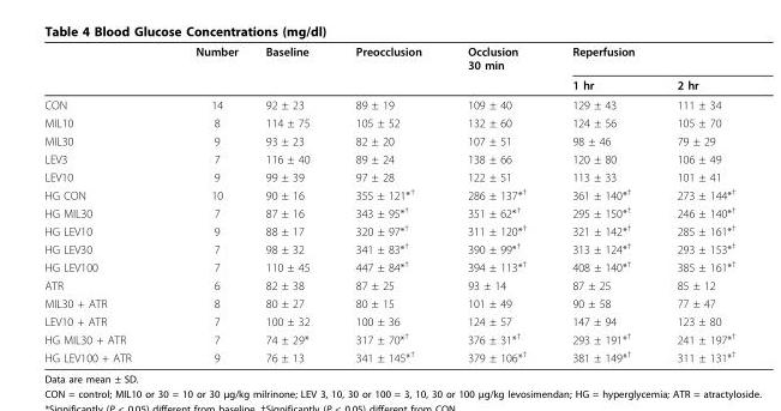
<table><thead><tr><td rowspan="2"></td><td rowspan="2">Number</td><td rowspan="2">Baseline</td><td rowspan="2">Preocclusion</td><td rowspan="2">Occlusion 30 min</td><td colspan="2">Reperfusion</td></tr><tr><td>1 hr</td><td>2 hr</td></tr></thead><tbody><tr><td>CON</td><td>14</td><td>92 ± 23</td><td>89 ± 19</td><td>109 ± 40</td><td>129 ± 43</td><td>111 ± 34</td></tr><tr><td>MIL10</td><td>8</td><td>114 ± 75</td><td>105 ± 52</td><td>132 ± 60</td><td>124 ± 56</td><td>105 ± 70</td></tr><tr><td>MIL30</td><td>9</td><td>93 ± 23</td><td>82 ± 20</td><td>107 ± 51</td><td>98 ± 46</td><td>79 ± 29</td></tr><tr><td>LEV3</td><td>7</td><td>116 ± 40</td><td>89 ± 24</td><td>138 ± 66</td><td>120 ± 80</td><td>106 ± 49</td></tr><tr><td>LEV10</td><td>9</td><td>99 ± 39</td><td>97 ± 28</td><td>122 ± 51</td><td>113 ± 33</td><td>101 ± 41</td></tr><tr><td>HG CON</td><td>10</td><td>90 ± 16</td><td>355 ± 121*<sup>†</sup></td><td>286 ± 137*<sup>†</sup></td><td>361 ± 140*<sup>†</sup></td><td>273 ± 144*<sup>†</sup></td></tr><tr><td>HG MIL30</td><td>7</td><td>87 ± 16</td><td>343 ± 95*<sup>†</sup></td><td>351 ± 62*<sup>†</sup></td><td>295 ± 150*<sup>†</sup></td><td>246 ± 140*<sup>†</sup></td></tr><tr><td>HG LEV10</td><td>9</td><td>88 ± 17</td><td>320 ± 97*<sup>†</sup></td><td>311 ± 120*<sup>†</sup></td><td>321 ± 142*<sup>†</sup></td><td>285 ± 161*<sup>†</sup></td></tr><tr><td>HG LEV30</td><td>7</td><td>98 ± 32</td><td>341 ± 83*<sup>†</sup></td><td>390 ± 99*<sup>†</sup></td><td>313 ± 124*<sup>†</sup></td><td>293 ± 153*<sup>†</sup></td></tr><tr><td>HG LEV100</td><td>7</td><td>110 ± 45</td><td>447 ± 84*<sup>†</sup></td><td>394 ± 113*<sup>†</sup></td><td>408 ± 140*<sup>†</sup></td><td>385 ± 161*<sup>†</sup></td></tr><tr><td>ATR</td><td>6</td><td>82 ± 38</td><td>87 ± 25</td><td>93 ± 14</td><td>87 ± 25</td><td>85 ± 12</td></tr><tr><td>MIL30 + ATR</td><td>8</td><td>80 ± 27</td><td>80 ± 15</td><td>101 ± 49</td><td>90 ± 58</td><td>77 ± 47</td></tr><tr><td>LEV10 + ATR</td><td>7</td><td>100 ± 32</td><td>100 ± 36</td><td>124 ± 57</td><td>147 ± 94</td><td>123 ± 80</td></tr><tr><td>HG MIL30 + ATR</td><td>7</td><td>74 ± 29*</td><td>317 ± 70*<sup>†</sup></td><td>376 ± 31*<sup>†</sup></td><td>293 ± 191*<sup>†</sup></td><td>241 ± 197*<sup>†</sup></td></tr><tr><td>HG LEV100 + ATR</td><td>9</td><td>76 ± 13</td><td>341 ± 145*<sup>†</sup></td><td>379 ± 106*<sup>†</sup></td><td>381 ± 149*<sup>†</sup></td><td>311 ± 131*<sup>†</sup></td></tr></tbody></table>